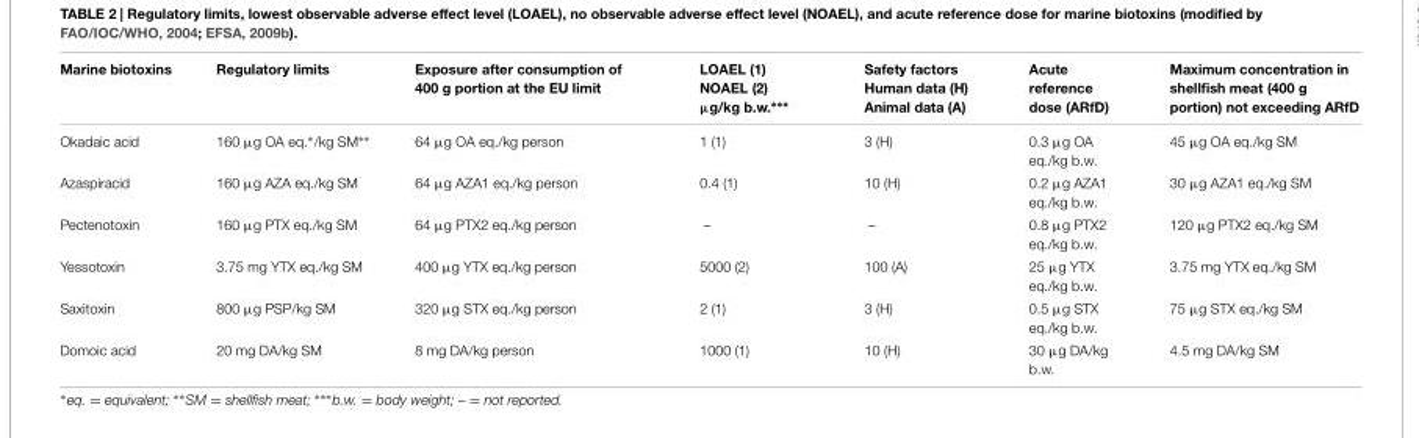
<table><thead><tr><td>Marine biotoxins</td><td>Regulatory limits</td><td>Exposure after consumption of 400 g portion at the EU limit</td><td>LOAEL (1) NOAEL (2) µg/kg b.w.∗∗∗</td><td>Safety factors Human data (H) Animal data (A)</td><td>Acute reference dose (ARfD)</td><td>Maximum concentration in shellfish meat (400 g portion) not exceeding ARfD</td></tr></thead><tbody><tr><td>Okadaic acid</td><td>160 µg OA eq.∗/kg SM∗∗</td><td>64 µg OA eq./kg person</td><td>1 (1)</td><td>3 (H)</td><td>0.3 µg OA eq./kg b.w.</td><td>45 µg OA eq./kg SM</td></tr><tr><td>Azaspiracid</td><td>160 µg AZA eq./kg SM</td><td>64 µg AZA1 eq./kg person</td><td>0.4 (1)</td><td>10 (H)</td><td>0.2 µg AZA1 eq./kg b.w.</td><td>30 µg AZA1 eq./kg SM</td></tr><tr><td>Pectenotoxin</td><td>160 µg PTX eq./kg SM</td><td>64 µg PTX2 eq./kg person</td><td>–</td><td>–</td><td>0.8 µg PTX2 eq./kg b.w.</td><td>120 µg PTX2 eq./kg SM</td></tr><tr><td>Yessotoxin</td><td>3.75 mg YTX eq./kg SM</td><td>400 µg YTX eq./kg person</td><td>5000 (2)</td><td>100 (A)</td><td>25 µg YTX eq./kg b.w.</td><td>3.75 mg YTX eq./kg SM</td></tr><tr><td>Saxitoxin</td><td>800 µg PSP/kg SM</td><td>320 µg STX eq./kg person</td><td>2 (1)</td><td>3 (H)</td><td>0.5 µg STX eq./kg b.w.</td><td>75 µg STX eq./kg SM</td></tr><tr><td>Domoic acid</td><td>20 mg DA/kg SM</td><td>8 mg DA/kg person</td><td>1000 (1)</td><td>10 (H)</td><td>30 µg DA/kg b.w.</td><td>4.5 mg DA/kg SM</td></tr></tbody></table>